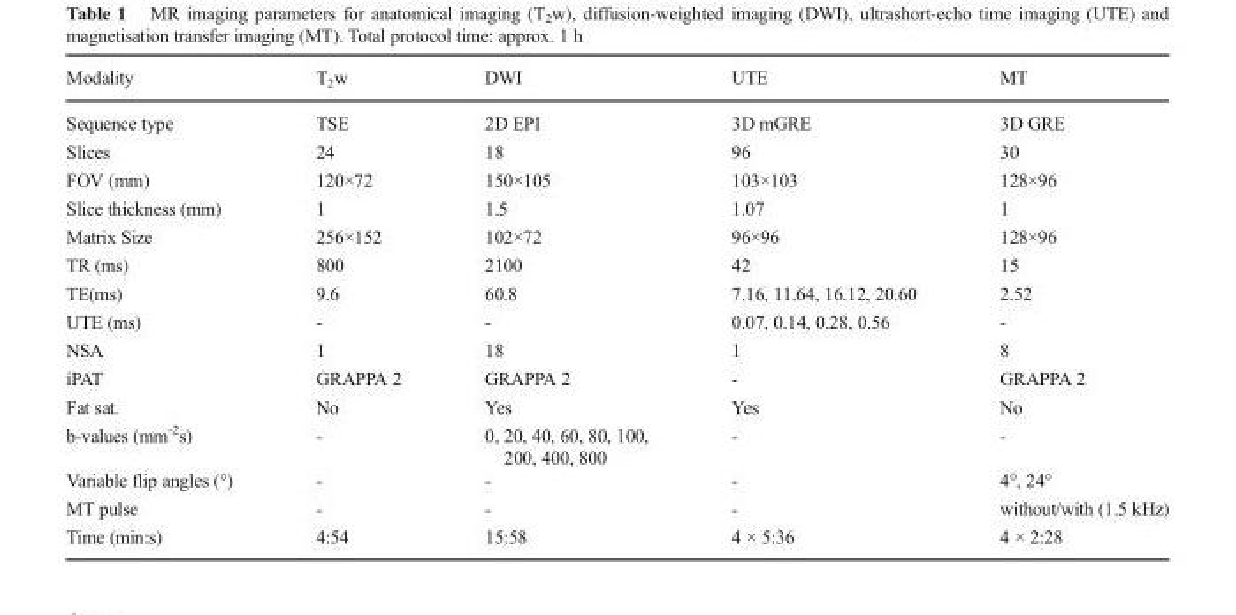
<table><thead><tr><td>Modality</td><td>T<sub>2</sub>w</td><td>DWI</td><td>UTE</td><td>MT</td></tr></thead><tbody><tr><td>Sequence type</td><td>TSE</td><td>2D EPI</td><td>3D mGRE</td><td>3D GRE</td></tr><tr><td>Slices</td><td>24</td><td>18</td><td>96</td><td>30</td></tr><tr><td>FOV (mm)</td><td>120×72</td><td>150×105</td><td>103×103</td><td>128×96</td></tr><tr><td>Slice thickness (mm)</td><td>1</td><td>1.5</td><td>1.07</td><td>1</td></tr><tr><td>Matrix Size</td><td>256×152</td><td>102×72</td><td>96×96</td><td>128×96</td></tr><tr><td>TR (ms)</td><td>800</td><td>2100</td><td>42</td><td>15</td></tr><tr><td>TE(ms)</td><td>9.6</td><td>60.8</td><td>7.16, 11.64, 16.12, 20.60</td><td>2.52</td></tr><tr><td>UTE (ms)</td><td>-</td><td>-</td><td>0.07, 0.14, 0.28, 0.56</td><td>-</td></tr><tr><td>NSA</td><td>1</td><td>18</td><td>1</td><td>8</td></tr><tr><td>iPAT</td><td>GRAPPA 2</td><td>GRAPPA 2</td><td>-</td><td>GRAPPA 2</td></tr><tr><td>Fat sat.</td><td>No</td><td>Yes</td><td>Yes</td><td>No</td></tr><tr><td>b-values (mm<sup>-2</sup>s)</td><td>-</td><td>0, 20, 40, 60, 80, 100, 200, 400, 800</td><td>-</td><td>-</td></tr><tr><td>Variable flip angles (°)</td><td>-</td><td>-</td><td>-</td><td>4°, 24°</td></tr><tr><td>MT pulse</td><td>-</td><td>-</td><td>-</td><td>without/with (1.5 kHz)</td></tr><tr><td>Time (min:s)</td><td>4:54</td><td>15:58</td><td>4 × 5:36</td><td>4 × 2:28</td></tr></tbody></table>